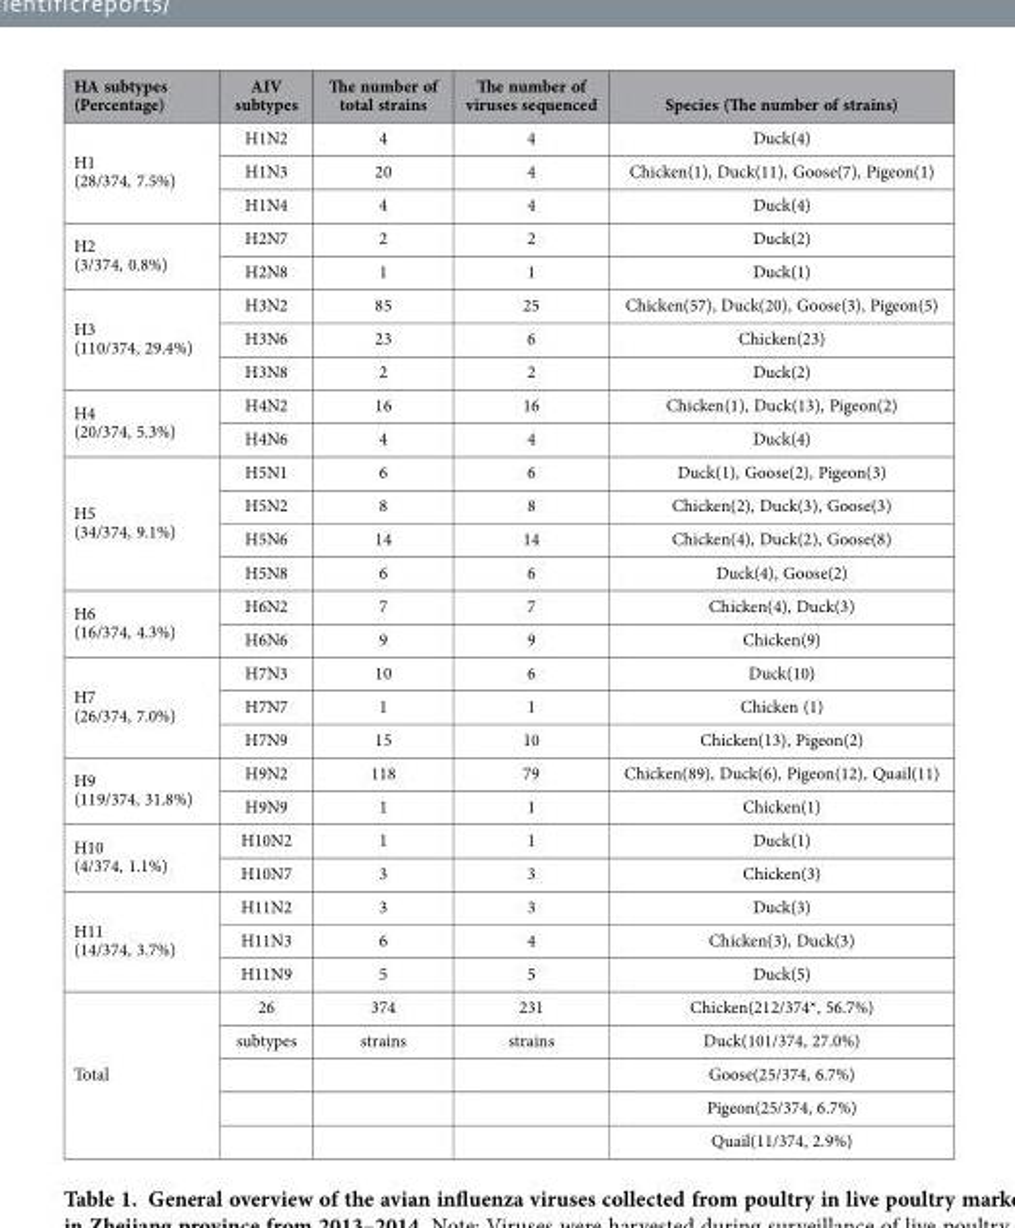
<table><thead><tr><td>HA subtypes (Percentage)</td><td>AIV subtypes</td><td>The number of total strains</td><td>The number of viruses sequenced</td><td>Species (The number of strains)</td></tr></thead><tbody><tr><td rowspan="3">H1 (28/374, 7.5%)</td><td>H1N2</td><td>4</td><td>4</td><td>Duck(4)</td></tr><tr><td>H1N3</td><td>20</td><td>4</td><td>Chicken(1), Duck(11), Goose(7), Pigeon(1)</td></tr><tr><td>H1N4</td><td>4</td><td>4</td><td>Duck(4)</td></tr><tr><td rowspan="2">H2 (3/374, 0.8%)</td><td>H2N7</td><td>2</td><td>2</td><td>Duck(2)</td></tr><tr><td>H2N8</td><td>1</td><td>1</td><td>Duck(1)</td></tr><tr><td rowspan="3">H3 (110/374, 29.4%)</td><td>H3N2</td><td>85</td><td>25</td><td>Chicken(57), Duck(20), Goose(3), Pigeon(5)</td></tr><tr><td>H3N6</td><td>23</td><td>6</td><td>Chicken(23)</td></tr><tr><td>H3N8</td><td>2</td><td>2</td><td>Duck(2)</td></tr><tr><td rowspan="2">H4 (20/374, 5.3%)</td><td>H4N2</td><td>16</td><td>16</td><td>Chicken(1), Duck(13), Pigeon(2)</td></tr><tr><td>H4N6</td><td>4</td><td>4</td><td>Duck(4)</td></tr><tr><td rowspan="4">H5 (34/374, 9.1%)</td><td>H5N1</td><td>6</td><td>6</td><td>Duck(1), Goose(2), Pigeon(3)</td></tr><tr><td>H5N2</td><td>8</td><td>8</td><td>Chicken(2), Duck(3), Goose(3)</td></tr><tr><td>H5N6</td><td>14</td><td>14</td><td>Chicken(4), Duck(2), Goose(8)</td></tr><tr><td>H5N8</td><td>6</td><td>6</td><td>Duck(4), Goose(2)</td></tr><tr><td rowspan="2">H6 (16/374, 4.3%)</td><td>H6N2</td><td>7</td><td>7</td><td>Chicken(4), Duck(3)</td></tr><tr><td>H6N6</td><td>9</td><td>9</td><td>Chicken(9)</td></tr><tr><td rowspan="3">H7 (26/374, 7.0%)</td><td>H7N3</td><td>10</td><td>6</td><td>Duck(10)</td></tr><tr><td>H7N7</td><td>1</td><td>1</td><td>Chicken (1)</td></tr><tr><td>H7N9</td><td>15</td><td>10</td><td>Chicken(13), Pigeon(2)</td></tr><tr><td rowspan="2">H9 (119/374, 31.8%)</td><td>H9N2</td><td>118</td><td>79</td><td>Chicken(89), Duck(6), Pigeon(12), Quail(11)</td></tr><tr><td>H9N9</td><td>1</td><td>1</td><td>Chicken(1)</td></tr><tr><td rowspan="2">H10 (4/374, 1.1%)</td><td>H10N2</td><td>1</td><td>1</td><td>Duck(1)</td></tr><tr><td>H10N7</td><td>3</td><td>3</td><td>Chicken(3)</td></tr><tr><td rowspan="3">H11 (14/374, 3.7%)</td><td>H11N2</td><td>3</td><td>3</td><td>Duck(3)</td></tr><tr><td>H11N3</td><td>6</td><td>4</td><td>Chicken(3), Duck(3)</td></tr><tr><td>H11N9</td><td>5</td><td>5</td><td>Duck(5)</td></tr><tr><td rowspan="5">Total</td><td>26</td><td>374</td><td>231</td><td>Chicken(212/374*, 56.7%)</td></tr><tr><td>subtypes</td><td>strains</td><td>strains</td><td>Duck(101/374, 27.0%)</td></tr><tr><td></td><td></td><td></td><td>Goose(25/374, 6.7%)</td></tr><tr><td></td><td></td><td></td><td>Pigeon(25/374, 6.7%)</td></tr><tr><td></td><td></td><td></td><td>Quail(11/374, 2.9%)</td></tr></tbody></table>